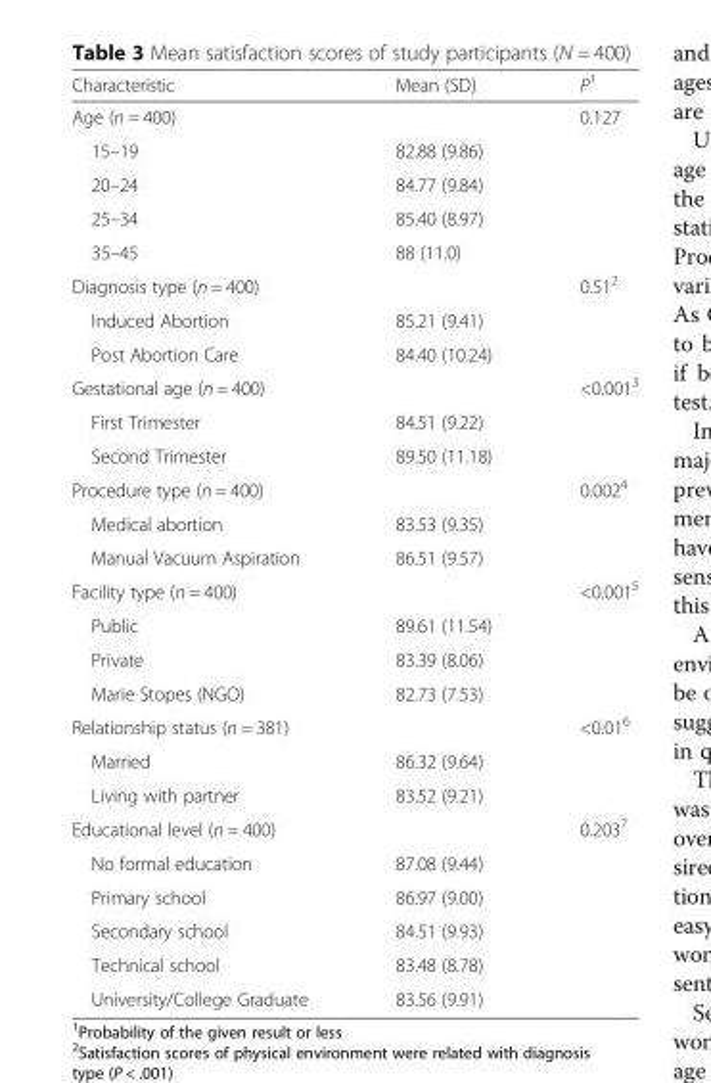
<table><thead><tr><td>Characteristic</td><td>Mean (SD)</td><td>P<sup>1</sup></td></tr></thead><tbody><tr><td>Age (n = 400)</td><td></td><td>0.127</td></tr><tr><td>15–19</td><td>82.88 (9.86)</td><td></td></tr><tr><td>20–24</td><td>84.77 (9.84)</td><td></td></tr><tr><td>25–34</td><td>85.40 (8.97)</td><td></td></tr><tr><td>35–45</td><td>88 (11.0)</td><td></td></tr><tr><td>Diagnosis type (n = 400)</td><td></td><td>0.51<sup>2</sup></td></tr><tr><td>Induced Abortion</td><td>85.21 (9.41)</td><td></td></tr><tr><td>Post Abortion Care</td><td>84.40 (10.24)</td><td></td></tr><tr><td>Gestational age (n = 400)</td><td></td><td>&lt;0.001<sup>3</sup></td></tr><tr><td>First Trimester</td><td>84.51 (9.22)</td><td></td></tr><tr><td>Second Trimester</td><td>89.50 (11.18)</td><td></td></tr><tr><td>Procedure type (n = 400)</td><td></td><td>0.002<sup>4</sup></td></tr><tr><td>Medical abortion</td><td>83.53 (9.35)</td><td></td></tr><tr><td>Manual Vacuum Aspiration</td><td>86.51 (9.57)</td><td></td></tr><tr><td>Facility type (n = 400)</td><td></td><td>&lt;0.001<sup>5</sup></td></tr><tr><td>Public</td><td>89.61 (11.54)</td><td></td></tr><tr><td>Private</td><td>83.39 (8.06)</td><td></td></tr><tr><td>Marie Stopes (NGO)</td><td>82.73 (7.53)</td><td></td></tr><tr><td>Relationship status (n = 381)</td><td></td><td>&lt;0.01<sup>6</sup></td></tr><tr><td>Married</td><td>86.32 (9.64)</td><td></td></tr><tr><td>Living with partner</td><td>83.52 (9.21)</td><td></td></tr><tr><td>Educational level (n = 400)</td><td></td><td>0.203<sup>7</sup></td></tr><tr><td>No formal education</td><td>87.08 (9.44)</td><td></td></tr><tr><td>Primary school</td><td>86.97 (9.00)</td><td></td></tr><tr><td>Secondary school</td><td>84.51 (9.93)</td><td></td></tr><tr><td>Technical school</td><td>83.48 (8.78)</td><td></td></tr><tr><td>University/College Graduate</td><td>83.56 (9.91)</td><td></td></tr></tbody></table>